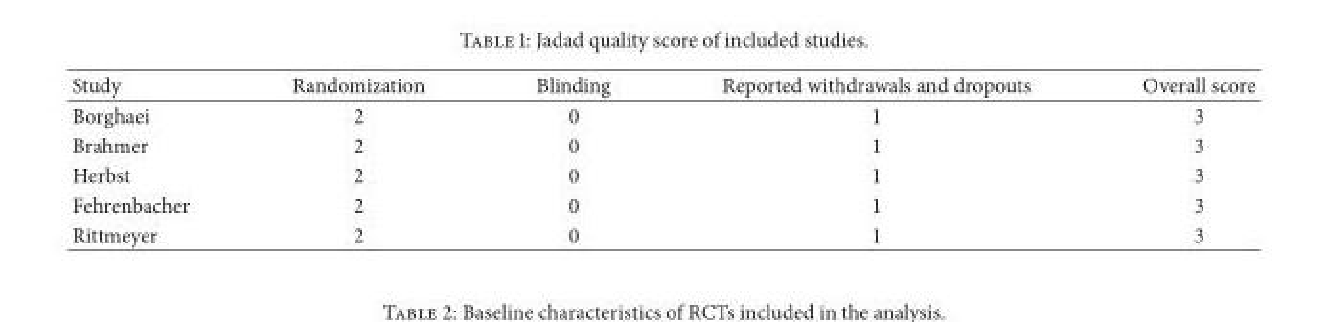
<table><thead><tr><td>Study</td><td>Randomization</td><td>Blinding</td><td>Reported withdrawals and dropouts</td><td>Overall score</td></tr></thead><tbody><tr><td>Borghaei</td><td>2</td><td>0</td><td>1</td><td>3</td></tr><tr><td>Brahmer</td><td>2</td><td>0</td><td>1</td><td>3</td></tr><tr><td>Herbst</td><td>2</td><td>0</td><td>1</td><td>3</td></tr><tr><td>Fehrenbacher</td><td>2</td><td>0</td><td>1</td><td>3</td></tr><tr><td>Rittmeyer</td><td>2</td><td>0</td><td>1</td><td>3</td></tr></tbody></table>